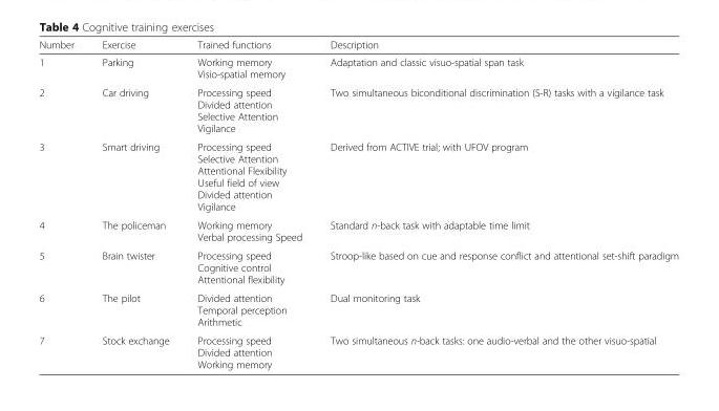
<table><thead><tr><td>Number</td><td>Exercise</td><td>Trained functions</td><td>Description</td></tr></thead><tbody><tr><td>1</td><td>Parking</td><td>Working memory Visio-spatial memory</td><td>Adaptation and classic visuo-spatial span task</td></tr><tr><td>2</td><td>Car driving</td><td>Processing speed Divided attention Selective Attention Vigilance</td><td>Two simultaneous biconditional discrimination (S-R) tasks with a vigilance task</td></tr><tr><td>3</td><td>Smart driving</td><td>Processing speed Selective Attention Attentional Flexibility Useful field of view Divided attention Vigilance</td><td>Derived from ACTIVE trial; with UFOV program</td></tr><tr><td>4</td><td>The policeman</td><td>Working memory Verbal processing Speed</td><td>Standard n-back task with adaptable time limit</td></tr><tr><td>5</td><td>Brain twister</td><td>Processing speed Cognitive control Attentional flexibility</td><td>Stroop-like based on cue and response conflict and attentional set-shift paradigm</td></tr><tr><td>6</td><td>The pilot</td><td>Divided attention Temporal perception Arithmetic</td><td>Dual monitoring task</td></tr><tr><td>7</td><td>Stock exchange</td><td>Processing speed Divided attention Working memory</td><td>Two simultaneous n-back tasks: one audio-verbal and the other visuo-spatial</td></tr></tbody></table>